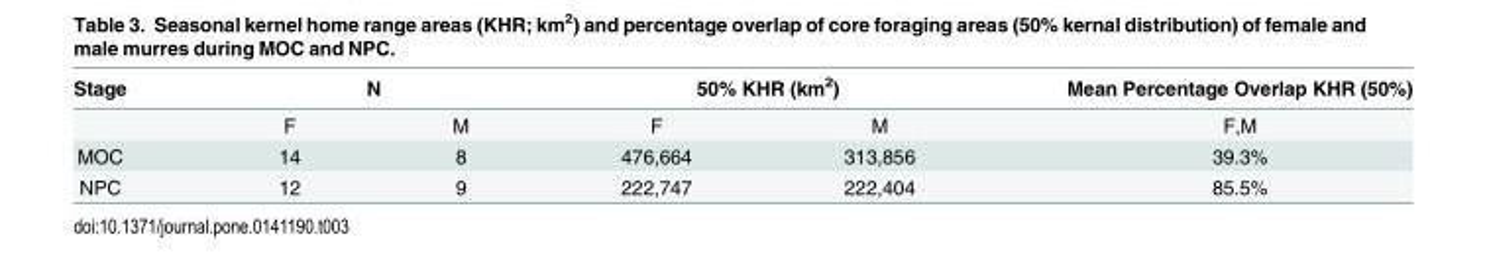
<table><thead><tr><td rowspan="2">Stage</td><td colspan="2">N</td><td colspan="2">50% KHR (km<sup>2</sup>)</td><td rowspan="2">Mean Percentage Overlap KHR (50%) F,M</td></tr><tr><td>F</td><td>M</td><td>F</td><td>M</td></tr></thead><tbody><tr><td>MOC</td><td>14</td><td>8</td><td>476,664</td><td>313,856</td><td>39.3%</td></tr><tr><td>NPC</td><td>12</td><td>9</td><td>222,747</td><td>222,404</td><td>85.5%</td></tr></tbody></table>